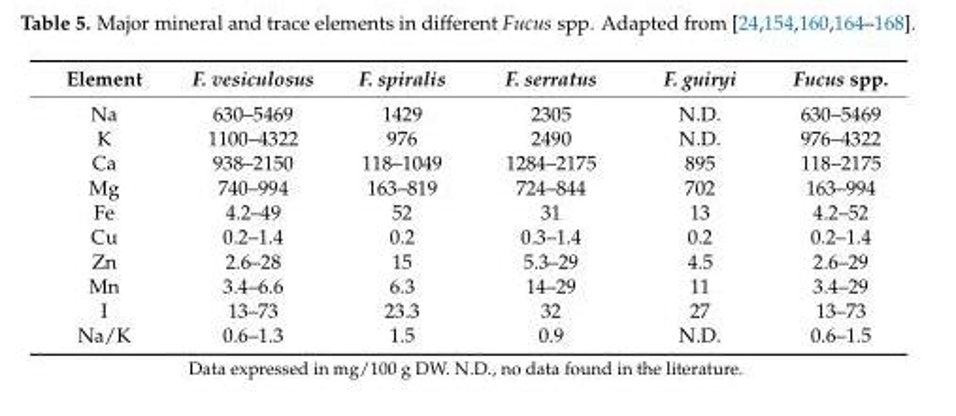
<table><thead><tr><td>Element</td><td>F. vesiculosus</td><td>F. spiralis</td><td>F. serratus</td><td>F. guiryi</td><td>Fucus spp.</td></tr></thead><tbody><tr><td>Na</td><td>630–5469</td><td>1429</td><td>2305</td><td>N.D.</td><td>630–5469</td></tr><tr><td>K</td><td>1100–4322</td><td>976</td><td>2490</td><td>N.D.</td><td>976–4322</td></tr><tr><td>Ca</td><td>938–2150</td><td>118–1049</td><td>1284–2175</td><td>895</td><td>118–2175</td></tr><tr><td>Mg</td><td>740–994</td><td>163–819</td><td>724–844</td><td>702</td><td>163–994</td></tr><tr><td>Fe</td><td>4.2–49</td><td>52</td><td>31</td><td>13</td><td>4.2–52</td></tr><tr><td>Cu</td><td>0.2–1.4</td><td>0.2</td><td>0.3–1.4</td><td>0.2</td><td>0.2–1.4</td></tr><tr><td>Zn</td><td>2.6–28</td><td>15</td><td>5.3–29</td><td>4.5</td><td>2.6–29</td></tr><tr><td>Mn</td><td>3.4–6.6</td><td>6.3</td><td>14–29</td><td>11</td><td>3.4–29</td></tr><tr><td>I</td><td>13–73</td><td>23.3</td><td>32</td><td>27</td><td>13–73</td></tr><tr><td>Na/K</td><td>0.6–1.3</td><td>1.5</td><td>0.9</td><td>N.D.</td><td>0.6–1.5</td></tr></tbody></table>